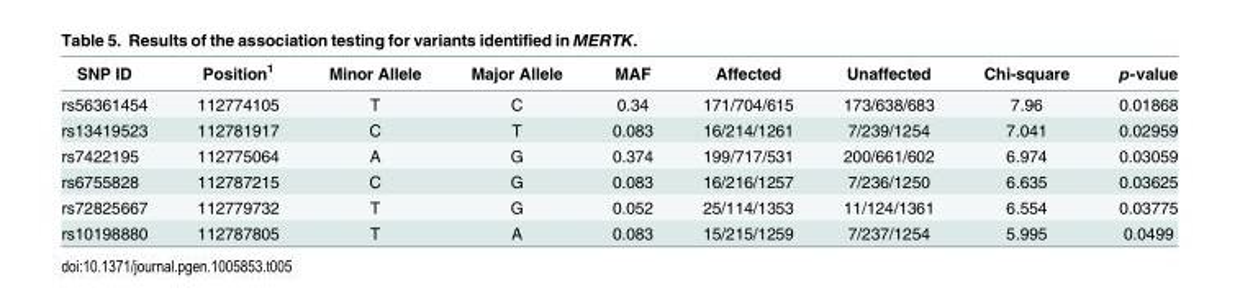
<table><thead><tr><td>SNP ID</td><td>Position<sup>1</sup></td><td>Minor Allele</td><td>Major Allele</td><td>MAF</td><td>Affected</td><td>Unaffected</td><td>Chi-square</td><td>p-value</td></tr></thead><tbody><tr><td>rs56361454</td><td>112774105</td><td>T</td><td>C</td><td>0.34</td><td>171/704/615</td><td>173/638/683</td><td>7.96</td><td>0.01868</td></tr><tr><td>rs13419523</td><td>112781917</td><td>C</td><td>T</td><td>0.083</td><td>16/214/1261</td><td>7/239/1254</td><td>7.041</td><td>0.02959</td></tr><tr><td>rs7422195</td><td>112775064</td><td>A</td><td>G</td><td>0.374</td><td>199/717/531</td><td>200/661/602</td><td>6.974</td><td>0.03059</td></tr><tr><td>rs6755828</td><td>112787215</td><td>C</td><td>G</td><td>0.083</td><td>16/216/1257</td><td>7/236/1250</td><td>6.635</td><td>0.03625</td></tr><tr><td>rs72825667</td><td>112779732</td><td>T</td><td>G</td><td>0.052</td><td>25/114/1353</td><td>11/124/1361</td><td>6.554</td><td>0.03775</td></tr><tr><td>rs10198880</td><td>112787805</td><td>T</td><td>A</td><td>0.083</td><td>15/215/1259</td><td>7/237/1254</td><td>5.995</td><td>0.0499</td></tr></tbody></table>